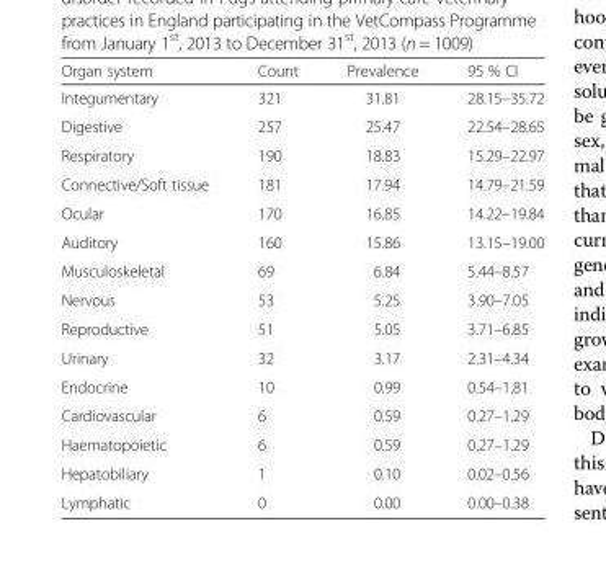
<table><thead><tr><td>Organ system</td><td>Count</td><td>Prevalence</td><td>95 % CI</td></tr></thead><tbody><tr><td>Integumentary</td><td>321</td><td>31.81</td><td>28.15–35.72</td></tr><tr><td>Digestive</td><td>257</td><td>25.47</td><td>22.54–28.65</td></tr><tr><td>Respiratory</td><td>190</td><td>18.83</td><td>15.29–22.97</td></tr><tr><td>Connective/Soft tissue</td><td>181</td><td>17.94</td><td>14.79–21.59</td></tr><tr><td>Ocular</td><td>170</td><td>16.85</td><td>14.22–19.84</td></tr><tr><td>Auditory</td><td>160</td><td>15.86</td><td>13.15–19.00</td></tr><tr><td>Musculoskeletal</td><td>69</td><td>6.84</td><td>5.44–8.57</td></tr><tr><td>Nervous</td><td>53</td><td>5.25</td><td>3.90–7.05</td></tr><tr><td>Reproductive</td><td>51</td><td>5.05</td><td>3.71–6.85</td></tr><tr><td>Urinary</td><td>32</td><td>3.17</td><td>2.31–4.34</td></tr><tr><td>Endocrine</td><td>10</td><td>0.99</td><td>0.54–1.81</td></tr><tr><td>Cardiovascular</td><td>6</td><td>0.59</td><td>0.27–1.29</td></tr><tr><td>Haematopoietic</td><td>6</td><td>0.59</td><td>0.27–1.29</td></tr><tr><td>Hepatobiliary</td><td>1</td><td>0.10</td><td>0.02–0.56</td></tr><tr><td>Lymphatic</td><td>0</td><td>0.00</td><td>0.00–0.38</td></tr></tbody></table>